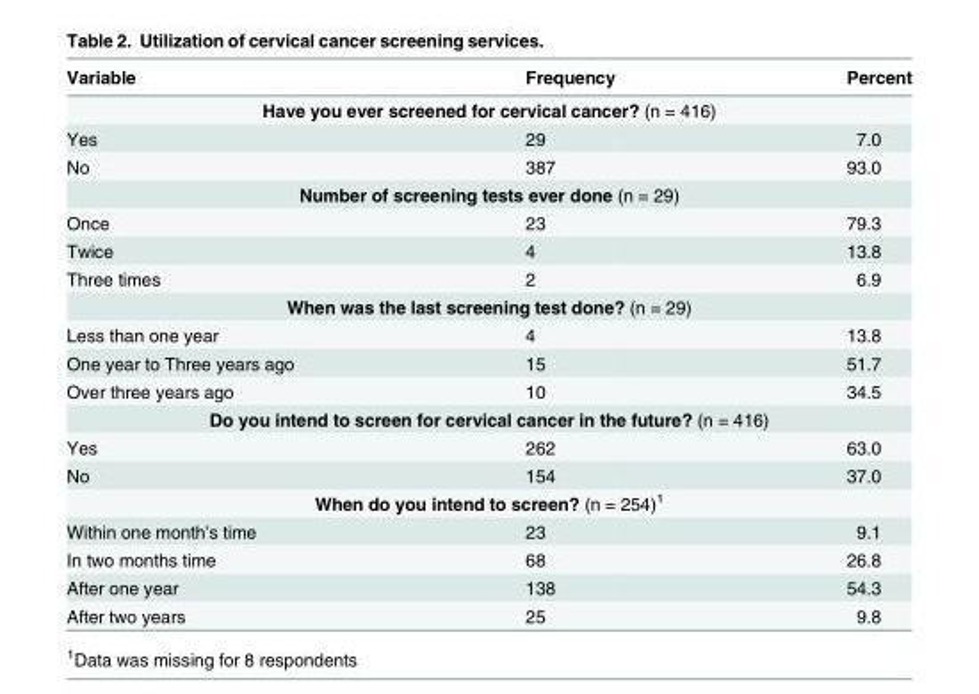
<table><thead><tr><td>Variable</td><td>Frequency</td><td>Percent</td></tr></thead><tbody><tr><td colspan="3">Have you ever screened for cervical cancer? (n = 416)</td></tr><tr><td>Yes</td><td>29</td><td>7.0</td></tr><tr><td>No</td><td>387</td><td>93.0</td></tr><tr><td colspan="3">Number of screening tests ever done (n = 29)</td></tr><tr><td>Once</td><td>23</td><td>79.3</td></tr><tr><td>Twice</td><td>4</td><td>13.8</td></tr><tr><td>Three times</td><td>2</td><td>6.9</td></tr><tr><td colspan="3">When was the last screening test done? (n = 29)</td></tr><tr><td>Less than one year</td><td>4</td><td>13.8</td></tr><tr><td>One year to Three years ago</td><td>15</td><td>51.7</td></tr><tr><td>Over three years ago</td><td>10</td><td>34.5</td></tr><tr><td colspan="3">Do you intend to screen for cervical cancer in the future? (n = 416)</td></tr><tr><td>Yes</td><td>262</td><td>63.0</td></tr><tr><td>No</td><td>154</td><td>37.0</td></tr><tr><td colspan="3">When do you intend to screen? (n = 254)<sup>1</sup></td></tr><tr><td>Within one month’s time</td><td>23</td><td>9.1</td></tr><tr><td>In two months time</td><td>68</td><td>26.8</td></tr><tr><td>After one year</td><td>138</td><td>54.3</td></tr><tr><td>After two years</td><td>25</td><td>9.8</td></tr></tbody></table>